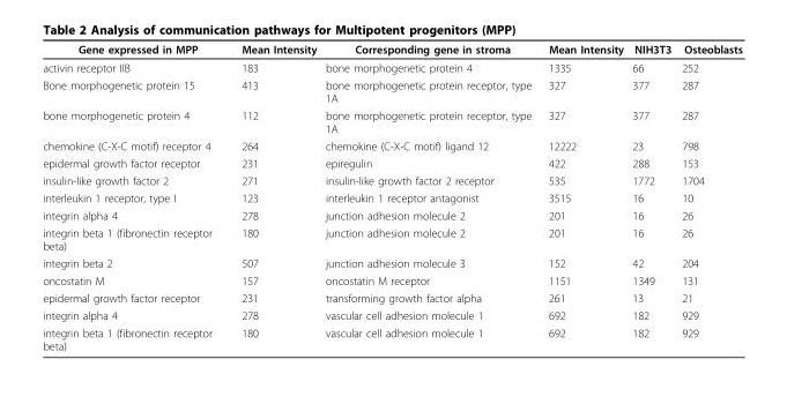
<table><thead><tr><td>Gene expressed in MPP</td><td>Mean Intensity</td><td>Corresponding gene in stroma</td><td>Mean Intensity</td><td>NIH3T3</td><td>Osteoblasts</td></tr></thead><tbody><tr><td>activin receptor IIB</td><td>183</td><td>bone morphogenetic protein 4</td><td>1335</td><td>66</td><td>252</td></tr><tr><td>Bone morphogenetic protein 15</td><td>413</td><td>bone morphogenetic protein receptor, type 1A</td><td>327</td><td>377</td><td>287</td></tr><tr><td>bone morphogenetic protein 4</td><td>112</td><td>bone morphogenetic protein receptor, type 1A</td><td>327</td><td>377</td><td>287</td></tr><tr><td>chemokine (C-X-C motif) receptor 4</td><td>264</td><td>chemokine (C-X-C motif) ligand 12</td><td>12222</td><td>23</td><td>798</td></tr><tr><td>epidermal growth factor receptor</td><td>231</td><td>epiregulin</td><td>422</td><td>288</td><td>153</td></tr><tr><td>insulin-like growth factor 2</td><td>271</td><td>insulin-like growth factor 2 receptor</td><td>535</td><td>1772</td><td>1704</td></tr><tr><td>interleukin 1 receptor, type I</td><td>123</td><td>interleukin 1 receptor antagonist</td><td>3515</td><td>16</td><td>10</td></tr><tr><td>integrin alpha 4</td><td>278</td><td>junction adhesion molecule 2</td><td>201</td><td>16</td><td>26</td></tr><tr><td>integrin beta 1 (fibronectin receptor beta)</td><td>180</td><td>junction adhesion molecule 2</td><td>201</td><td>16</td><td>26</td></tr><tr><td>integrin beta 2</td><td>507</td><td>junction adhesion molecule 3</td><td>152</td><td>42</td><td>204</td></tr><tr><td>oncostatin M</td><td>157</td><td>oncostatin M receptor</td><td>1151</td><td>1349</td><td>131</td></tr><tr><td>epidermal growth factor receptor</td><td>231</td><td>transforming growth factor alpha</td><td>261</td><td>13</td><td>21</td></tr><tr><td>integrin alpha 4</td><td>278</td><td>vascular cell adhesion molecule 1</td><td>692</td><td>182</td><td>929</td></tr><tr><td>integrin beta 1 (fibronectin receptor beta)</td><td>180</td><td>vascular cell adhesion molecule 1</td><td>692</td><td>182</td><td>929</td></tr></tbody></table>